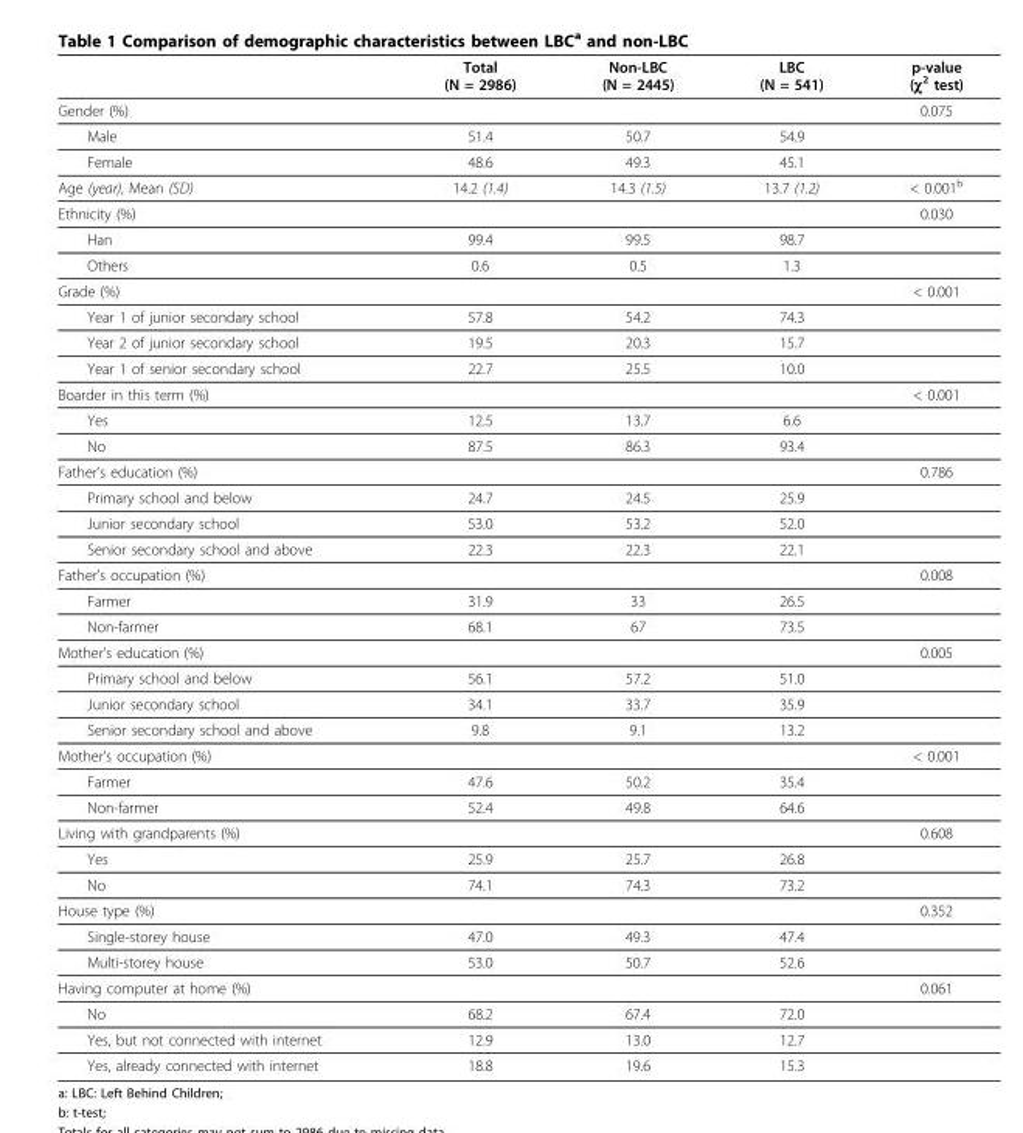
<table><thead><tr><td></td><td>Total (N = 2986)</td><td>Non-LBC (N = 2445)</td><td>LBC (N = 541)</td><td>p-value (χ<sup>2</sup> test)</td></tr></thead><tbody><tr><td>Gender (%)</td><td></td><td></td><td></td><td>0.075</td></tr><tr><td>Male</td><td>51.4</td><td>50.7</td><td>54.9</td><td></td></tr><tr><td>Female</td><td>48.6</td><td>49.3</td><td>45.1</td><td></td></tr><tr><td>Age (year), Mean (SD)</td><td>14.2 (1.4)</td><td>14.3 (1.5)</td><td>13.7 (1.2)</td><td>&lt; 0.001<sup>b</sup></td></tr><tr><td>Ethnicity (%)</td><td></td><td></td><td></td><td>0.030</td></tr><tr><td>Han</td><td>99.4</td><td>99.5</td><td>98.7</td><td></td></tr><tr><td>Others</td><td>0.6</td><td>0.5</td><td>1.3</td><td></td></tr><tr><td>Grade (%)</td><td></td><td></td><td></td><td>&lt; 0.001</td></tr><tr><td>Year 1 of junior secondary school</td><td>57.8</td><td>54.2</td><td>74.3</td><td></td></tr><tr><td>Year 2 of junior secondary school</td><td>19.5</td><td>20.3</td><td>15.7</td><td></td></tr><tr><td>Year 1 of senior secondary school</td><td>22.7</td><td>25.5</td><td>10.0</td><td></td></tr><tr><td>Boarder in this term (%)</td><td></td><td></td><td></td><td>&lt; 0.001</td></tr><tr><td>Yes</td><td>12.5</td><td>13.7</td><td>6.6</td><td></td></tr><tr><td>No</td><td>87.5</td><td>86.3</td><td>93.4</td><td></td></tr><tr><td>Father’s education (%)</td><td></td><td></td><td></td><td>0.786</td></tr><tr><td>Primary school and below</td><td>24.7</td><td>24.5</td><td>25.9</td><td></td></tr><tr><td>Junior secondary school</td><td>53.0</td><td>53.2</td><td>52.0</td><td></td></tr><tr><td>Senior secondary school and above</td><td>22.3</td><td>22.3</td><td>22.1</td><td></td></tr><tr><td>Father’s occupation (%)</td><td></td><td></td><td></td><td>0.008</td></tr><tr><td>Farmer</td><td>31.9</td><td>33</td><td>26.5</td><td></td></tr><tr><td>Non-farmer</td><td>68.1</td><td>67</td><td>73.5</td><td></td></tr><tr><td>Mother’s education (%)</td><td></td><td></td><td></td><td>0.005</td></tr><tr><td>Primary school and below</td><td>56.1</td><td>57.2</td><td>51.0</td><td></td></tr><tr><td>Junior secondary school</td><td>34.1</td><td>33.7</td><td>35.9</td><td></td></tr><tr><td>Senior secondary school and above</td><td>9.8</td><td>9.1</td><td>13.2</td><td></td></tr><tr><td>Mother’s occupation (%)</td><td></td><td></td><td></td><td>&lt; 0.001</td></tr><tr><td>Farmer</td><td>47.6</td><td>50.2</td><td>35.4</td><td></td></tr><tr><td>Non-farmer</td><td>52.4</td><td>49.8</td><td>64.6</td><td></td></tr><tr><td>Living with grandparents (%)</td><td></td><td></td><td></td><td>0.608</td></tr><tr><td>Yes</td><td>25.9</td><td>25.7</td><td>26.8</td><td></td></tr><tr><td>No</td><td>74.1</td><td>74.3</td><td>73.2</td><td></td></tr><tr><td>House type (%)</td><td></td><td></td><td></td><td>0.352</td></tr><tr><td>Single-storey house</td><td>47.0</td><td>49.3</td><td>47.4</td><td></td></tr><tr><td>Multi-storey house</td><td>53.0</td><td>50.7</td><td>52.6</td><td></td></tr><tr><td>Having computer at home (%)</td><td></td><td></td><td></td><td>0.061</td></tr><tr><td>No</td><td>68.2</td><td>67.4</td><td>72.0</td><td></td></tr><tr><td>Yes, but not connected with internet</td><td>12.9</td><td>13.0</td><td>12.7</td><td></td></tr><tr><td>Yes, already connected with internet</td><td>18.8</td><td>19.6</td><td>15.3</td><td></td></tr></tbody></table>